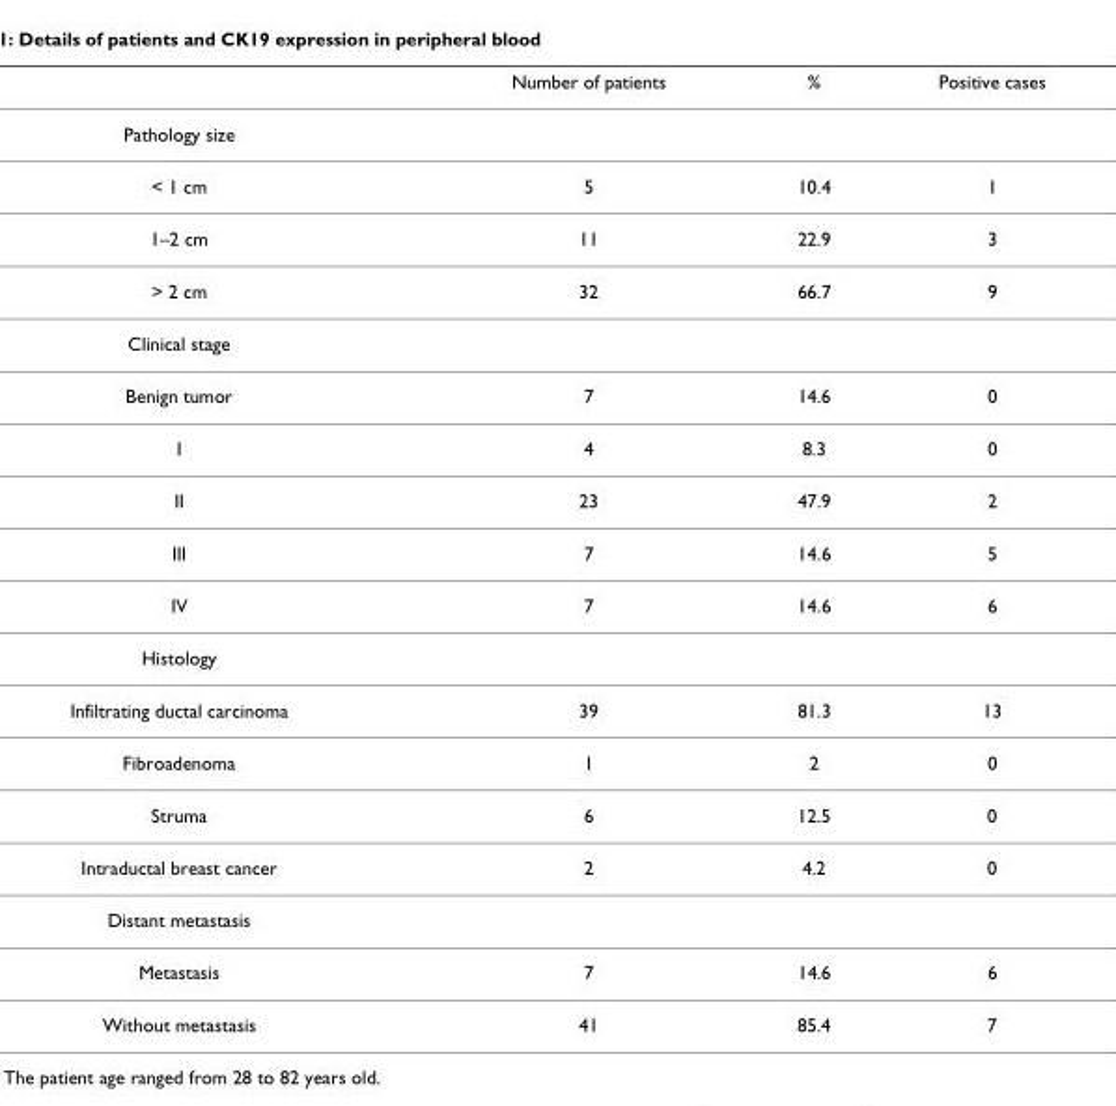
<table><thead><tr><td></td><td>Number of patients</td><td>%</td><td>Positive cases</td></tr></thead><tbody><tr><td colspan="4">Pathology size</td></tr><tr><td>&lt; 1 cm</td><td>5</td><td>10.4</td><td>1</td></tr><tr><td>1–2 cm</td><td>11</td><td>22.9</td><td>3</td></tr><tr><td>&gt; 2 cm</td><td>32</td><td>66.7</td><td>9</td></tr><tr><td colspan="4">Clinical stage</td></tr><tr><td>Benign tumor</td><td>7</td><td>14.6</td><td>0</td></tr><tr><td>I</td><td>4</td><td>8.3</td><td>0</td></tr><tr><td>II</td><td>23</td><td>47.9</td><td>2</td></tr><tr><td>III</td><td>7</td><td>14.6</td><td>5</td></tr><tr><td>IV</td><td>7</td><td>14.6</td><td>6</td></tr><tr><td colspan="4">Histology</td></tr><tr><td>Infiltrating ductal carcinoma</td><td>39</td><td>81.3</td><td>13</td></tr><tr><td>Fibroadenoma</td><td>1</td><td>2</td><td>0</td></tr><tr><td>Struma</td><td>6</td><td>12.5</td><td>0</td></tr><tr><td>Intraductal breast cancer</td><td>2</td><td>4.2</td><td>0</td></tr><tr><td colspan="4">Distant metastasis</td></tr><tr><td>Metastasis</td><td>7</td><td>14.6</td><td>6</td></tr><tr><td>Without metastasis</td><td>41</td><td>85.4</td><td>7</td></tr></tbody></table>